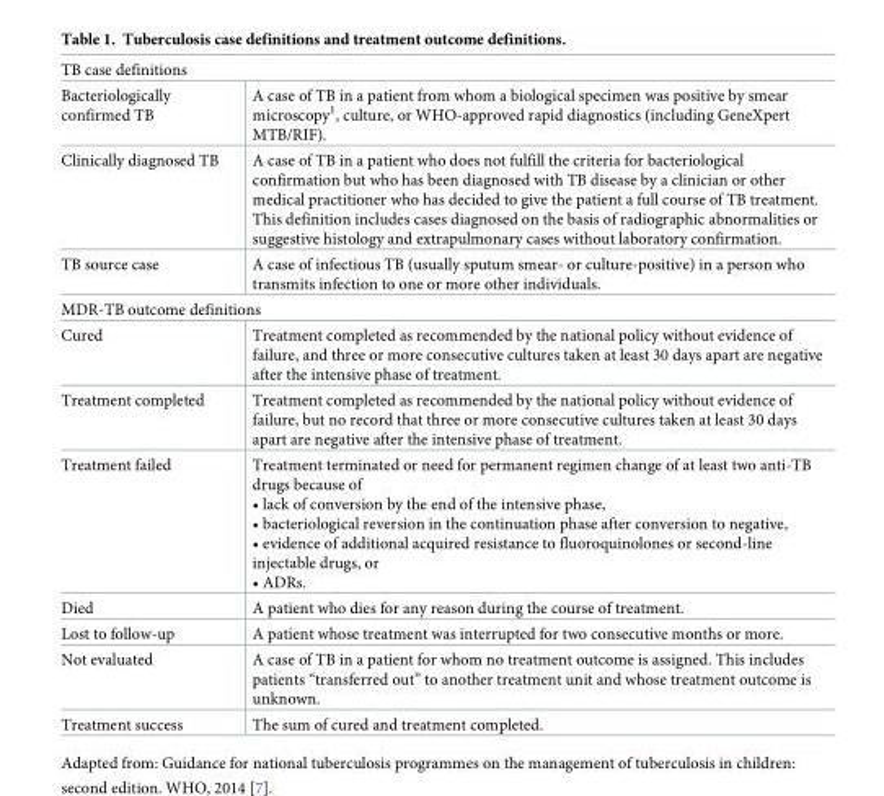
<table><tbody><tr><td colspan="2">TB case definitions</td></tr><tr><td>Bacteriologically confirmed TB</td><td>A case of TB in a patient from whom a biological specimen was positive by smear microscopy<sup>1</sup>, culture, or WHO-approved rapid diagnostics (including GeneXpert MTB/RIF).</td></tr><tr><td>Clinically diagnosed TB</td><td>A case of TB in a patient who does not fulfill the criteria for bacteriological confirmation but who has been diagnosed with TB disease by a clinician or other medical practitioner who has decided to give the patient a full course of TB treatment. This definition includes cases diagnosed on the basis of radiographic abnormalities or suggestive histology and extrapulmonary cases without laboratory confirmation.</td></tr><tr><td>TB source case</td><td>A case of infectious TB (usually sputum smear- or culture-positive) in a person who transmits infection to one or more other individuals.</td></tr><tr><td colspan="2">MDR-TB outcome definitions</td></tr><tr><td>Cured</td><td>Treatment completed as recommended by the national policy without evidence of failure, and three or more consecutive cultures taken at least 30 days apart are negative after the intensive phase of treatment.</td></tr><tr><td>Treatment completed</td><td>Treatment completed as recommended by the national policy without evidence of failure, but no record that three or more consecutive cultures taken at least 30 days apart are negative after the intensive phase of treatment.</td></tr><tr><td>Treatment failed</td><td>Treatment terminated or need for permanent regimen change of at least two anti-TB drugs because of • lack of conversion by the end of the intensive phase, • bacteriological reversion in the continuation phase after conversion to negative, • evidence of additional acquired resistance to fluoroquinolones or second-line injectable drugs, or • ADRs.</td></tr><tr><td>Died</td><td>A patient who dies for any reason during the course of treatment.</td></tr><tr><td>Lost to follow-up</td><td>A patient whose treatment was interrupted for two consecutive months or more.</td></tr><tr><td>Not evaluated</td><td>A case of TB in a patient for whom no treatment outcome is assigned. This includes patients “transferred out” to another treatment unit and whose treatment outcome is unknown.</td></tr><tr><td>Treatment success</td><td>The sum of cured and treatment completed.</td></tr></tbody></table>